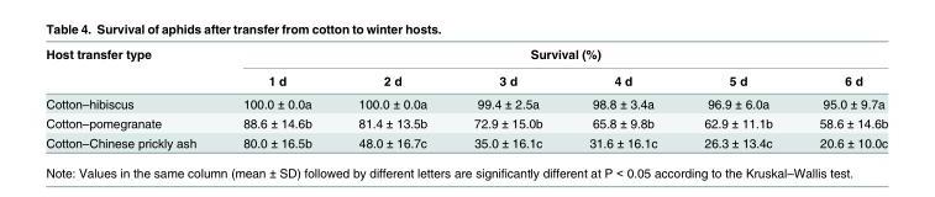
<table><thead><tr><td rowspan="2">Host transfer type</td><td colspan="6">Survival (%)</td></tr><tr><td>1 d</td><td>2 d</td><td>3 d</td><td>4 d</td><td>5 d</td><td>6 d</td></tr></thead><tbody><tr><td>Cotton–hibiscus</td><td>100.0 ± 0.0a</td><td>100.0 ± 0.0a</td><td>99.4 ± 2.5a</td><td>98.8 ± 3.4a</td><td>96.9 ± 6.0a</td><td>95.0 ± 9.7a</td></tr><tr><td>Cotton–pomegranate</td><td>88.6 ± 14.6b</td><td>81.4 ± 13.5b</td><td>72.9 ± 15.0b</td><td>65.8 ± 9.8b</td><td>62.9 ± 11.1b</td><td>58.6 ± 14.6b</td></tr><tr><td>Cotton–Chinese prickly ash</td><td>80.0 ± 16.5b</td><td>48.0 ± 16.7c</td><td>35.0 ± 16.1c</td><td>31.6 ± 16.1c</td><td>26.3 ± 13.4c</td><td>20.6 ± 10.0c</td></tr></tbody></table>